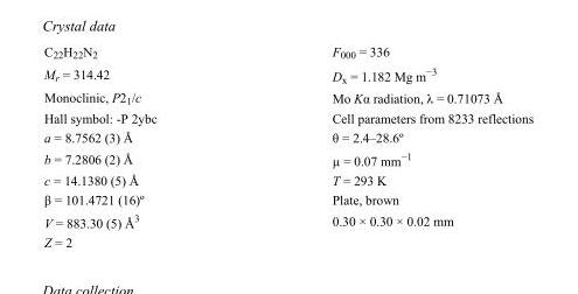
<table><tbody><tr><td>C<sub>22</sub>H<sub>22</sub>N<sub>2</sub></td><td>F000 = 336</td></tr><tr><td>M<sub>r</sub> = 314.42</td><td>D<sub>x</sub> = 1.182 Mg m<sup>−3</sup></td></tr><tr><td>Monoclinic, P2<sub>1</sub>/c</td><td>Mo Kα radiation, λ = 0.71073 Å</td></tr><tr><td>Hall symbol: -P 2ybc</td><td>Cell parameters from 8233 reflections</td></tr><tr><td>a = 8.7562 (3) Å</td><td>θ = 2.4–28.6º</td></tr><tr><td>b = 7.2806 (2) Å</td><td>µ = 0.07 mm<sup>−1</sup></td></tr><tr><td>c = 14.1380 (5) Å</td><td>T = 293 K</td></tr><tr><td>β = 101.4721 (16)º</td><td>Plate, brown</td></tr><tr><td>V = 883.30 (5) Å<sup>3</sup></td><td>0.30 × 0.30 × 0.02 mm</td></tr><tr><td>Z = 2</td><td></td></tr></tbody></table>